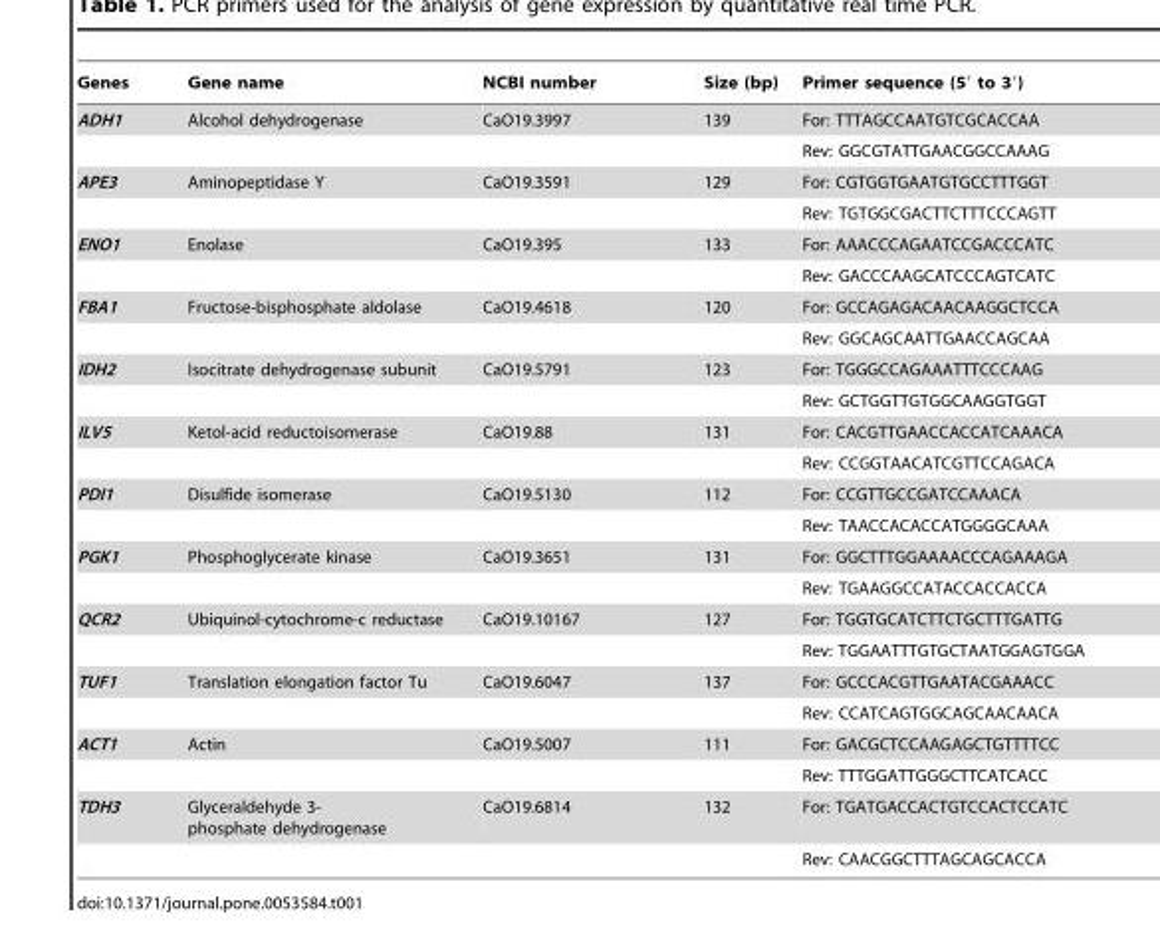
<table><thead><tr><td>Genes</td><td>Gene name</td><td>NCBI number</td><td>Size (bp)</td><td>Primer sequence (5′ to 3′)</td></tr></thead><tbody><tr><td rowspan="2">ADH1</td><td>Alcohol dehydrogenase</td><td>CaO19.3997</td><td>139</td><td>For: TTTAGCCAATGTCGCACCAA</td></tr><tr><td></td><td></td><td></td><td>Rev: GGCGTATTGAACGGCCAAAG</td></tr><tr><td rowspan="2">APE3</td><td>Aminopeptidase Y</td><td>CaO19.3591</td><td>129</td><td>For: CGTGGTGAATGTGCCTTTGGT</td></tr><tr><td></td><td></td><td></td><td>Rev: TGTGGCGACTTCTTTCCCAGTT</td></tr><tr><td rowspan="2">ENO1</td><td>Enolase</td><td>CaO19.395</td><td>133</td><td>For: AAACCCAGAATCCGACCCATC</td></tr><tr><td></td><td></td><td></td><td>Rev: GACCCAAGCATCCCAGTCATC</td></tr><tr><td rowspan="2">FBA1</td><td>Fructose-bisphosphate aldolase</td><td>CaO19.4618</td><td>120</td><td>For: GCCAGAGACAACAAGGCTCCA</td></tr><tr><td></td><td></td><td></td><td>Rev: GGCAGCAATTGAACCAGCAA</td></tr><tr><td rowspan="2">IDH2</td><td>Isocitrate dehydrogenase subunit</td><td>CaO19.5791</td><td>123</td><td>For: TGGGCCAGAAATTTCCCAAG</td></tr><tr><td></td><td></td><td></td><td>Rev: GCTGGTTGTGGCAAGGTGGT</td></tr><tr><td rowspan="2">ILV5</td><td>Ketol-acid reductoisomerase</td><td>CaO19.88</td><td>131</td><td>For: CACGTTGAACCACCATCAAACA</td></tr><tr><td></td><td></td><td></td><td>Rev: CCGGTAACATCGTTCCAGACA</td></tr><tr><td rowspan="2">PDI1</td><td>Disulfide isomerase</td><td>CaO19.5130</td><td>112</td><td>For: CCGTTGCCGATCCAAACA</td></tr><tr><td></td><td></td><td></td><td>Rev: TAACCACACCATGGGGCAAA</td></tr><tr><td rowspan="2">PGK1</td><td>Phosphoglycerate kinase</td><td>CaO19.3651</td><td>131</td><td>For: GGCTTTGGAAAACCCAGAAAGA</td></tr><tr><td></td><td></td><td></td><td>Rev: TGAAGGCCATACCACCACCA</td></tr><tr><td rowspan="2">QCR2</td><td>Ubiquinol-cytochrome-c reductase</td><td>CaO19.10167</td><td>127</td><td>For: TGGTGCATCTTCTGCTTTGATTG</td></tr><tr><td></td><td></td><td></td><td>Rev: TGGAATTTGTGCTAATGGAGTGGA</td></tr><tr><td rowspan="2">TUF1</td><td>Translation elongation factor Tu</td><td>CaO19.6047</td><td>137</td><td>For: GCCCACGTTGAATACGAAACC</td></tr><tr><td></td><td></td><td></td><td>Rev: CCATCAGTGGCAGCAACAACA</td></tr><tr><td rowspan="2">ACT1</td><td>Actin</td><td>CaO19.5007</td><td>111</td><td>For: GACGCTCCAAGAGCTGTTTTCC</td></tr><tr><td></td><td></td><td></td><td>Rev: TTTGGATTGGGCTTCATCACC</td></tr><tr><td rowspan="2">TDH3</td><td>Glyceraldehyde 3- phosphate dehydrogenase</td><td>CaO19.6814</td><td>132</td><td>For: TGATGACCACTGTCCACTCCATC</td></tr><tr><td></td><td></td><td></td><td>Rev: CAACGGCTTTAGCAGCACCA</td></tr></tbody></table>